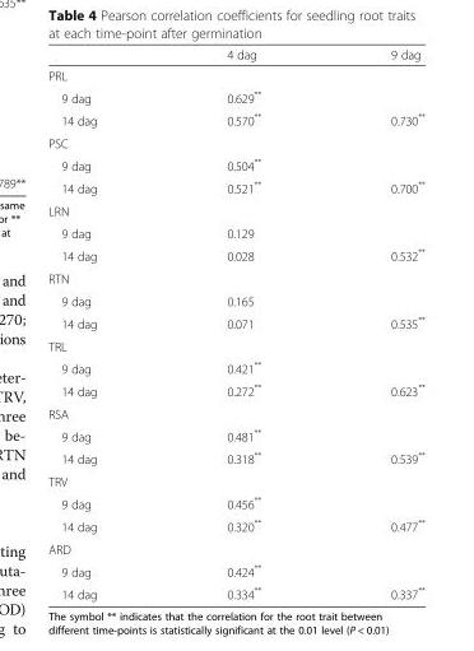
<table><thead><tr><td></td><td>4 dag</td><td>9 dag</td></tr></thead><tbody><tr><td colspan="3">PRL</td></tr><tr><td>9 dag</td><td>0.629**</td><td></td></tr><tr><td>14 dag</td><td>0.570**</td><td>0.730**</td></tr><tr><td colspan="3">PSC</td></tr><tr><td>9 dag</td><td>0.504**</td><td></td></tr><tr><td>14 dag</td><td>0.521**</td><td>0.700**</td></tr><tr><td colspan="3">LRN</td></tr><tr><td>9 dag</td><td>0.129</td><td></td></tr><tr><td>14 dag</td><td>0.028</td><td>0.532**</td></tr><tr><td colspan="3">RTN</td></tr><tr><td>9 dag</td><td>0.165</td><td></td></tr><tr><td>14 dag</td><td>0.071</td><td>0.535**</td></tr><tr><td colspan="3">TRL</td></tr><tr><td>9 dag</td><td>0.421**</td><td></td></tr><tr><td>14 dag</td><td>0.272**</td><td>0.623**</td></tr><tr><td colspan="3">RSA</td></tr><tr><td>9 dag</td><td>0.481**</td><td></td></tr><tr><td>14 dag</td><td>0.318**</td><td>0.539**</td></tr><tr><td colspan="3">TRV</td></tr><tr><td>9 dag</td><td>0.456**</td><td></td></tr><tr><td>14 dag</td><td>0.320**</td><td>0.477**</td></tr><tr><td colspan="3">ARD</td></tr><tr><td>9 dag</td><td>0.424**</td><td></td></tr><tr><td>14 dag</td><td>0.334**</td><td>0.337**</td></tr></tbody></table>